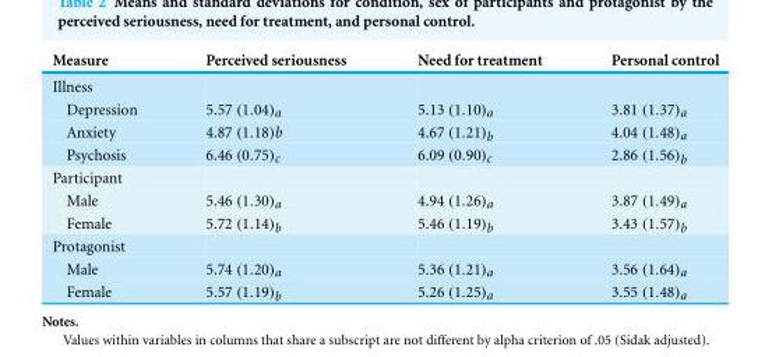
<table><thead><tr><td>Measure</td><td>Perceived seriousness</td><td>Need for treatment</td><td>Personal control</td></tr></thead><tbody><tr><td colspan="4">Illness</td></tr><tr><td>Depression</td><td>5.57 (1.04)<sub>a</sub></td><td>5.13 (1.10)<sub>a</sub></td><td>3.81 (1.37)<sub>a</sub></td></tr><tr><td>Anxiety</td><td>4.87 (1.18)b</td><td>4.67 (1.21)<sub>b</sub></td><td>4.04 (1.48)<sub>a</sub></td></tr><tr><td>Psychosis</td><td>6.46 (0.75)<sub>c</sub></td><td>6.09 (0.90)<sub>c</sub></td><td>2.86 (1.56)<sub>b</sub></td></tr><tr><td colspan="4">Participant</td></tr><tr><td>Male</td><td>5.46 (1.30)<sub>a</sub></td><td>4.94 (1.26)<sub>a</sub></td><td>3.87 (1.49)<sub>a</sub></td></tr><tr><td>Female</td><td>5.72 (1.14)<sub>b</sub></td><td>5.46 (1.19)<sub>b</sub></td><td>3.43 (1.57)<sub>b</sub></td></tr><tr><td colspan="4">Protagonist</td></tr><tr><td>Male</td><td>5.74 (1.20)<sub>a</sub></td><td>5.36 (1.21)<sub>a</sub></td><td>3.56 (1.64)<sub>a</sub></td></tr><tr><td>Female</td><td>5.57 (1.19)<sub>b</sub></td><td>5.26 (1.25)<sub>a</sub></td><td>3.55 (1.48)<sub>a</sub></td></tr></tbody></table>